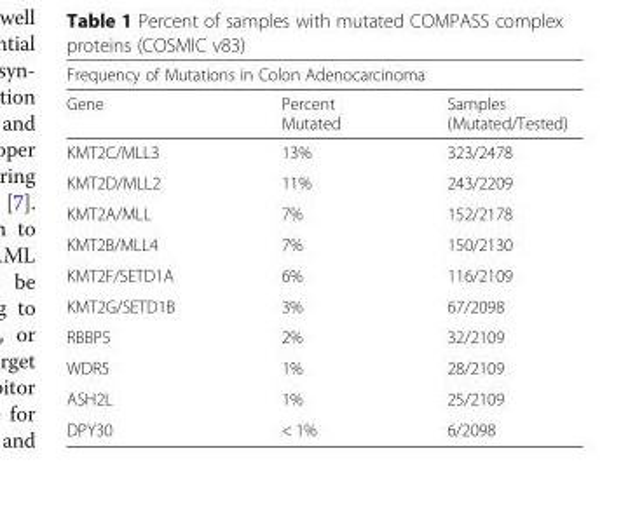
<table><thead><tr><td colspan="3">Frequency of Mutations in Colon Adenocarcinoma</td></tr><tr><td>Gene</td><td>Percent Mutated</td><td>Samples (Mutated/Tested)</td></tr></thead><tbody><tr><td>KMT2C/MLL3</td><td>13%</td><td>323/2478</td></tr><tr><td>KMT2D/MLL2</td><td>11%</td><td>243/2209</td></tr><tr><td>KMT2A/MLL</td><td>7%</td><td>152/2178</td></tr><tr><td>KMT2B/MLL4</td><td>7%</td><td>150/2130</td></tr><tr><td>KMT2F/SETD1A</td><td>6%</td><td>116/2109</td></tr><tr><td>KMT2G/SETD1B</td><td>3%</td><td>67/2098</td></tr><tr><td>RBBP5</td><td>2%</td><td>32/2109</td></tr><tr><td>WDR5</td><td>1%</td><td>28/2109</td></tr><tr><td>ASH2L</td><td>1%</td><td>25/2109</td></tr><tr><td>DPY30</td><td>&lt; 1%</td><td>6/2098</td></tr></tbody></table>